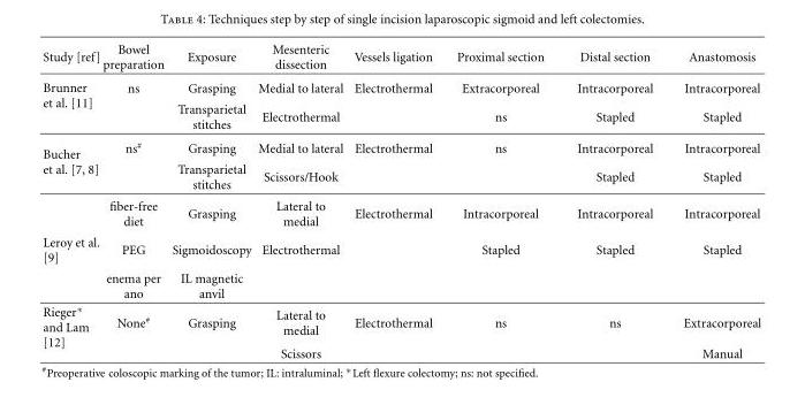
<table><thead><tr><td>Study [ref]</td><td>Bowel preparation</td><td>Exposure</td><td>Mesenteric dissection</td><td>Vessels ligation</td><td>Proximal section</td><td>Distal section</td><td>Anastomosis</td></tr></thead><tbody><tr><td rowspan="2">Brunner et al. [11]</td><td>ns</td><td>Grasping</td><td>Medial to lateral</td><td>Electrothermal</td><td>Extracorporeal</td><td>Intracorporeal</td><td>Intracorporeal</td></tr><tr><td></td><td>Transparietal stitches</td><td>Electrothermal</td><td></td><td>ns</td><td>Stapled</td><td>Stapled</td></tr><tr><td rowspan="3">Bucher et al. [7, 8]</td><td>ns<sup>#</sup></td><td>Grasping</td><td>Medial to lateral</td><td>Electrothermal</td><td>ns</td><td>Intracorporeal</td><td>Intracorporeal</td></tr><tr><td></td><td>Transparietal stitches</td><td>Scissors/Hook</td><td></td><td></td><td>Stapled</td><td>Stapled</td></tr><tr><td>fiber-free diet</td><td>Grasping</td><td>Lateral to medial</td><td>Electrothermal</td><td>Intracorporeal</td><td>Intracorporeal</td><td>Intracorporeal</td></tr><tr><td rowspan="2">Leroy et al. [9]</td><td>PEG</td><td>Sigmoidoscopy</td><td>Electrothermal</td><td></td><td>Stapled</td><td>Stapled</td><td>Stapled</td></tr><tr><td>enema per ano</td><td>IL magnetic anvil</td><td></td><td></td><td></td><td></td><td></td></tr><tr><td rowspan="2">Rieger∗ and Lam [12]</td><td>None<sup>#</sup></td><td>Grasping</td><td>Lateral to medial</td><td>Electrothermal</td><td>ns</td><td>ns</td><td>Extracorporeal</td></tr><tr><td></td><td></td><td>Scissors</td><td></td><td></td><td></td><td>Manual</td></tr></tbody></table>